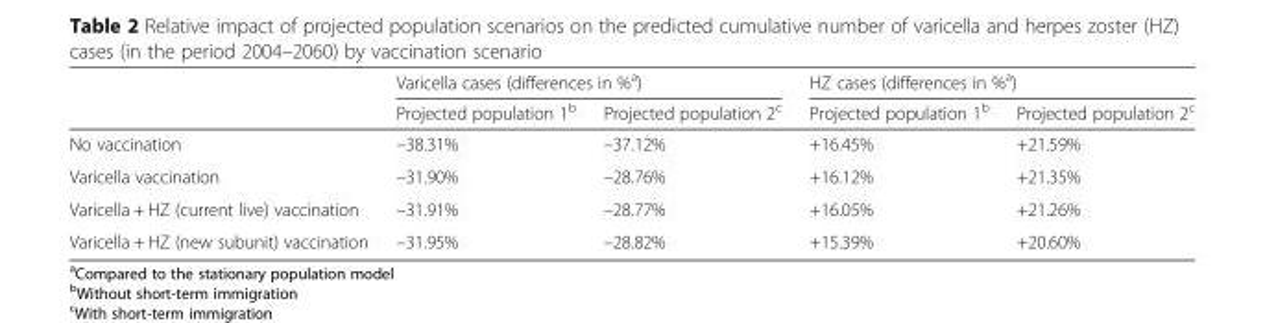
<table><thead><tr><td rowspan="2"></td><td colspan="2">Varicella cases (differences in %<sup>a</sup>)</td><td colspan="2">HZ cases (differences in %<sup>a</sup>)</td></tr><tr><td>Projected population 1<sup>b</sup></td><td>Projected population 2<sup>c</sup></td><td>Projected population 1<sup>b</sup></td><td>Projected population 2<sup>c</sup></td></tr></thead><tbody><tr><td>No vaccination</td><td>–38.31%</td><td>–37.12%</td><td>+16.45%</td><td>+21.59%</td></tr><tr><td>Varicella vaccination</td><td>–31.90%</td><td>–28.76%</td><td>+16.12%</td><td>+21.35%</td></tr><tr><td>Varicella + HZ (current live) vaccination</td><td>–31.91%</td><td>–28.77%</td><td>+16.05%</td><td>+21.26%</td></tr><tr><td>Varicella + HZ (new subunit) vaccination</td><td>–31.95%</td><td>–28.82%</td><td>+15.39%</td><td>+20.60%</td></tr></tbody></table>